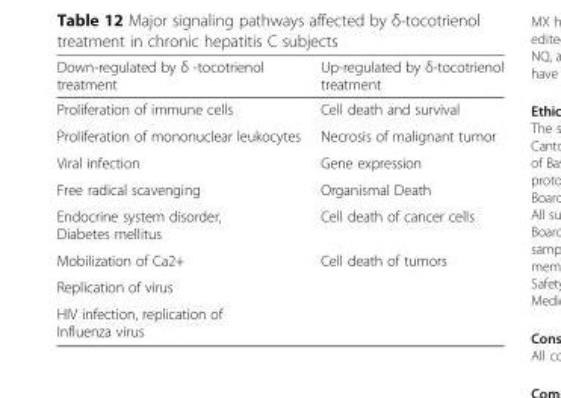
<table><thead><tr><td>Down-regulated by δ -tocotrienol treatment</td><td>Up-regulated by δ-tocotrienol treatment</td></tr></thead><tbody><tr><td>Proliferation of immune cells</td><td>Cell death and survival</td></tr><tr><td>Proliferation of mononuclear leukocytes</td><td>Necrosis of malignant tumor</td></tr><tr><td>Viral infection</td><td>Gene expression</td></tr><tr><td>Free radical scavenging</td><td>Organismal Death</td></tr><tr><td>Endocrine system disorder, Diabetes mellitus</td><td>Cell death of cancer cells</td></tr><tr><td>Mobilization of Ca2+</td><td>Cell death of tumors</td></tr><tr><td colspan="2">Replication of virus</td></tr><tr><td>HIV infection, replication of Influenza virus</td><td></td></tr></tbody></table>